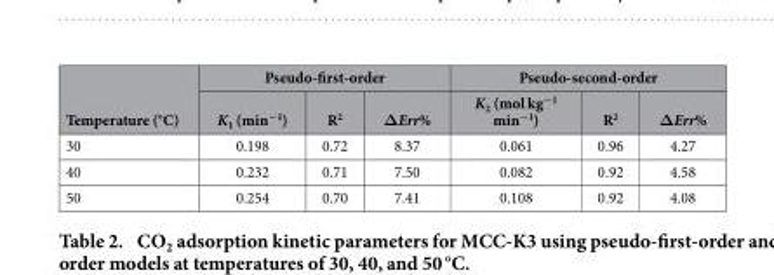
<table><thead><tr><td rowspan="2">Temperature (°C)</td><td colspan="3">Pseudo-first-order</td><td colspan="3">Pseudo-second-order</td></tr><tr><td>K<sub>1</sub> (min<sup>−1</sup>)</td><td>R<sup>2</sup></td><td>ΔErr%</td><td>K<sub>2</sub> (mol kg<sup>−1</sup> min<sup>−1</sup>)</td><td>R<sup>2</sup></td><td>ΔErr%</td></tr></thead><tbody><tr><td>30</td><td>0.198</td><td>0.72</td><td>8.37</td><td>0.061</td><td>0.96</td><td>4.27</td></tr><tr><td>40</td><td>0.232</td><td>0.71</td><td>7.50</td><td>0.082</td><td>0.92</td><td>4.58</td></tr><tr><td>50</td><td>0.254</td><td>0.70</td><td>7.41</td><td>0.108</td><td>0.92</td><td>4.08</td></tr></tbody></table>